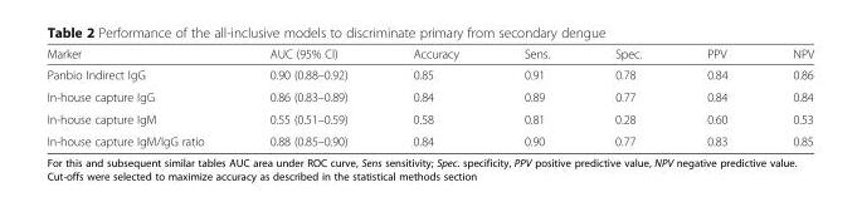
<table><thead><tr><td>Marker</td><td>AUC (95% CI)</td><td>Accuracy</td><td>Sens.</td><td>Spec.</td><td>PPV</td><td>NPV</td></tr></thead><tbody><tr><td>Panbio Indirect IgG</td><td>0.90 (0.88–0.92)</td><td>0.85</td><td>0.91</td><td>0.78</td><td>0.84</td><td>0.86</td></tr><tr><td>In-house capture IgG</td><td>0.86 (0.83–0.89)</td><td>0.84</td><td>0.89</td><td>0.77</td><td>0.84</td><td>0.84</td></tr><tr><td>In-house capture IgM</td><td>0.55 (0.51–0.59)</td><td>0.58</td><td>0.81</td><td>0.28</td><td>0.60</td><td>0.53</td></tr><tr><td>In-house capture IgM/IgG ratio</td><td>0.88 (0.85–0.90)</td><td>0.84</td><td>0.90</td><td>0.77</td><td>0.83</td><td>0.85</td></tr></tbody></table>